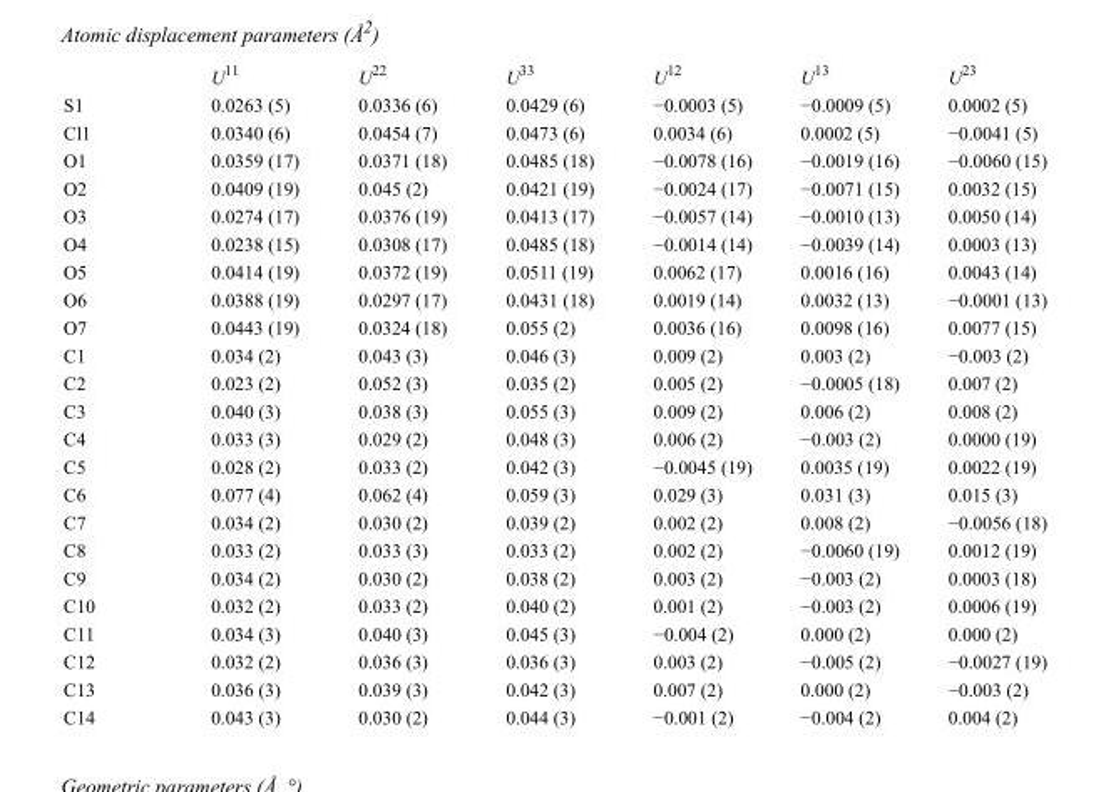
<table><thead><tr><td></td><td>U<sup>11</sup></td><td>U<sup>22</sup></td><td>U<sup>33</sup></td><td>U<sup>12</sup></td><td>U<sup>13</sup></td><td>U<sup>23</sup></td></tr></thead><tbody><tr><td>S1</td><td>0.0263 (5)</td><td>0.0336 (6)</td><td>0.0429 (6)</td><td>−0.0003 (5)</td><td>−0.0009 (5)</td><td>0.0002 (5)</td></tr><tr><td>Cl1</td><td>0.0340 (6)</td><td>0.0454 (7)</td><td>0.0473 (6)</td><td>0.0034 (6)</td><td>0.0002 (5)</td><td>−0.0041 (5)</td></tr><tr><td>O1</td><td>0.0359 (17)</td><td>0.0371 (18)</td><td>0.0485 (18)</td><td>−0.0078 (16)</td><td>−0.0019 (16)</td><td>−0.0060 (15)</td></tr><tr><td>O2</td><td>0.0409 (19)</td><td>0.045 (2)</td><td>0.0421 (19)</td><td>−0.0024 (17)</td><td>−0.0071 (15)</td><td>0.0032 (15)</td></tr><tr><td>O3</td><td>0.0274 (17)</td><td>0.0376 (19)</td><td>0.0413 (17)</td><td>−0.0057 (14)</td><td>−0.0010 (13)</td><td>0.0050 (14)</td></tr><tr><td>O4</td><td>0.0238 (15)</td><td>0.0308 (17)</td><td>0.0485 (18)</td><td>−0.0014 (14)</td><td>−0.0039 (14)</td><td>0.0003 (13)</td></tr><tr><td>O5</td><td>0.0414 (19)</td><td>0.0372 (19)</td><td>0.0511 (19)</td><td>0.0062 (17)</td><td>0.0016 (16)</td><td>0.0043 (14)</td></tr><tr><td>O6</td><td>0.0388 (19)</td><td>0.0297 (17)</td><td>0.0431 (18)</td><td>0.0019 (14)</td><td>0.0032 (13)</td><td>−0.0001 (13)</td></tr><tr><td>O7</td><td>0.0443 (19)</td><td>0.0324 (18)</td><td>0.055 (2)</td><td>0.0036 (16)</td><td>0.0098 (16)</td><td>0.0077 (15)</td></tr><tr><td>C1</td><td>0.034 (2)</td><td>0.043 (3)</td><td>0.046 (3)</td><td>0.009 (2)</td><td>0.003 (2)</td><td>−0.003 (2)</td></tr><tr><td>C2</td><td>0.023 (2)</td><td>0.052 (3)</td><td>0.035 (2)</td><td>0.005 (2)</td><td>−0.0005 (18)</td><td>0.007 (2)</td></tr><tr><td>C3</td><td>0.040 (3)</td><td>0.038 (3)</td><td>0.055 (3)</td><td>0.009 (2)</td><td>0.006 (2)</td><td>0.008 (2)</td></tr><tr><td>C4</td><td>0.033 (3)</td><td>0.029 (2)</td><td>0.048 (3)</td><td>0.006 (2)</td><td>−0.003 (2)</td><td>0.0000 (19)</td></tr><tr><td>C5</td><td>0.028 (2)</td><td>0.033 (2)</td><td>0.042 (3)</td><td>−0.0045 (19)</td><td>0.0035 (19)</td><td>0.0022 (19)</td></tr><tr><td>C6</td><td>0.077 (4)</td><td>0.062 (4)</td><td>0.059 (3)</td><td>0.029 (3)</td><td>0.031 (3)</td><td>0.015 (3)</td></tr><tr><td>C7</td><td>0.034 (2)</td><td>0.030 (2)</td><td>0.039 (2)</td><td>0.002 (2)</td><td>0.008 (2)</td><td>−0.0056 (18)</td></tr><tr><td>C8</td><td>0.033 (2)</td><td>0.033 (3)</td><td>0.033 (2)</td><td>0.002 (2)</td><td>−0.0060 (19)</td><td>0.0012 (19)</td></tr><tr><td>C9</td><td>0.034 (2)</td><td>0.030 (2)</td><td>0.038 (2)</td><td>0.003 (2)</td><td>−0.003 (2)</td><td>0.0003 (18)</td></tr><tr><td>C10</td><td>0.032 (2)</td><td>0.033 (2)</td><td>0.040 (2)</td><td>0.001 (2)</td><td>−0.003 (2)</td><td>0.0006 (19)</td></tr><tr><td>C11</td><td>0.034 (3)</td><td>0.040 (3)</td><td>0.045 (3)</td><td>−0.004 (2)</td><td>0.000 (2)</td><td>0.000 (2)</td></tr><tr><td>C12</td><td>0.032 (2)</td><td>0.036 (3)</td><td>0.036 (3)</td><td>0.003 (2)</td><td>−0.005 (2)</td><td>−0.0027 (19)</td></tr><tr><td>C13</td><td>0.036 (3)</td><td>0.039 (3)</td><td>0.042 (3)</td><td>0.007 (2)</td><td>0.000 (2)</td><td>−0.003 (2)</td></tr><tr><td>C14</td><td>0.043 (3)</td><td>0.030 (2)</td><td>0.044 (3)</td><td>−0.001 (2)</td><td>−0.004 (2)</td><td>0.004 (2)</td></tr></tbody></table>